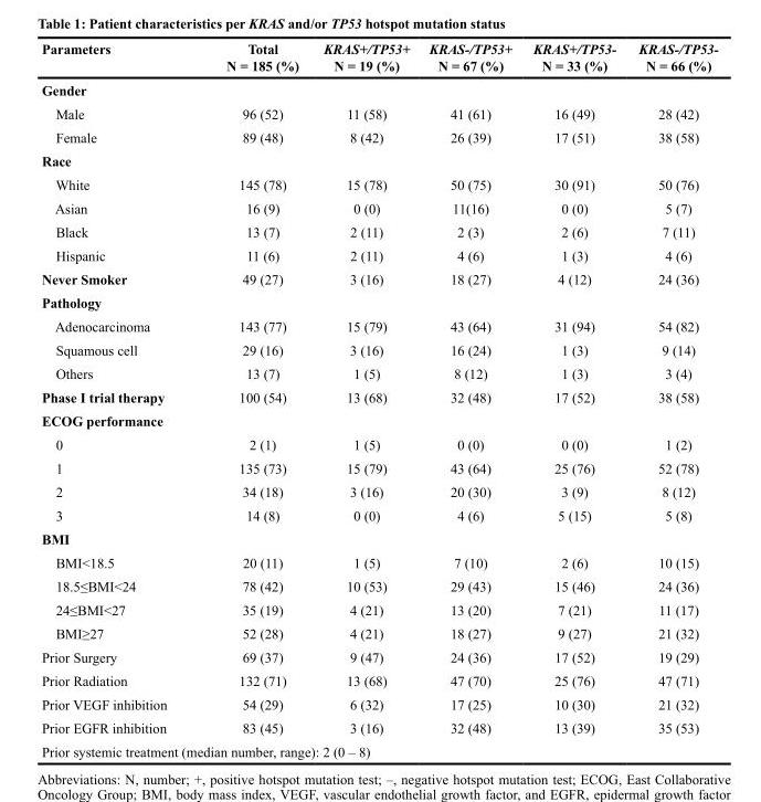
<table><thead><tr><td>Parameters</td><td>Total N = 185 (%)</td><td>KRAS+/TP53+ N = 19 (%)</td><td>KRAS-/TP53+ N = 67 (%)</td><td>KRAS+/TP53- N = 33 (%)</td><td>KRAS-/TP53- N = 66 (%)</td></tr></thead><tbody><tr><td colspan="6">Gender</td></tr><tr><td>Male</td><td>96 (52)</td><td>11 (58)</td><td>41 (61)</td><td>16 (49)</td><td>28 (42)</td></tr><tr><td>Female</td><td>89 (48)</td><td>8 (42)</td><td>26 (39)</td><td>17 (51)</td><td>38 (58)</td></tr><tr><td colspan="6">Race</td></tr><tr><td>White</td><td>145 (78)</td><td>15 (78)</td><td>50 (75)</td><td>30 (91)</td><td>50 (76)</td></tr><tr><td>Asian</td><td>16 (9)</td><td>0 (0)</td><td>11(16)</td><td>0 (0)</td><td>5 (7)</td></tr><tr><td>Black</td><td>13 (7)</td><td>2 (11)</td><td>2 (3)</td><td>2 (6)</td><td>7 (11)</td></tr><tr><td>Hispanic</td><td>11 (6)</td><td>2 (11)</td><td>4 (6)</td><td>1 (3)</td><td>4 (6)</td></tr><tr><td>Never Smoker</td><td>49 (27)</td><td>3 (16)</td><td>18 (27)</td><td>4 (12)</td><td>24 (36)</td></tr><tr><td colspan="6">Pathology</td></tr><tr><td>Adenocarcinoma</td><td>143 (77)</td><td>15 (79)</td><td>43 (64)</td><td>31 (94)</td><td>54 (82)</td></tr><tr><td>Squamous cell</td><td>29 (16)</td><td>3 (16)</td><td>16 (24)</td><td>1 (3)</td><td>9 (14)</td></tr><tr><td>Others</td><td>13 (7)</td><td>1 (5)</td><td>8 (12)</td><td>1 (3)</td><td>3 (4)</td></tr><tr><td>Phase I trial therapy</td><td>100 (54)</td><td>13 (68)</td><td>32 (48)</td><td>17 (52)</td><td>38 (58)</td></tr><tr><td colspan="6">ECOG performance</td></tr><tr><td>0</td><td>2 (1)</td><td>1 (5)</td><td>0 (0)</td><td>0 (0)</td><td>1 (2)</td></tr><tr><td>1</td><td>135 (73)</td><td>15 (79)</td><td>43 (64)</td><td>25 (76)</td><td>52 (78)</td></tr><tr><td>2</td><td>34 (18)</td><td>3 (16)</td><td>20 (30)</td><td>3 (9)</td><td>8 (12)</td></tr><tr><td>3</td><td>14 (8)</td><td>0 (0)</td><td>4 (6)</td><td>5 (15)</td><td>5 (8)</td></tr><tr><td colspan="6">BMI</td></tr><tr><td>BMI&lt;18.5</td><td>20 (11)</td><td>1 (5)</td><td>7 (10)</td><td>2 (6)</td><td>10 (15)</td></tr><tr><td>18.5≤BMI&lt;24</td><td>78 (42)</td><td>10 (53)</td><td>29 (43)</td><td>15 (46)</td><td>24 (36)</td></tr><tr><td>24≤BMI&lt;27</td><td>35 (19)</td><td>4 (21)</td><td>13 (20)</td><td>7 (21)</td><td>11 (17)</td></tr><tr><td>BMI≥27</td><td>52 (28)</td><td>4 (21)</td><td>18 (27)</td><td>9 (27)</td><td>21 (32)</td></tr><tr><td>Prior Surgery</td><td>69 (37)</td><td>9 (47)</td><td>24 (36)</td><td>17 (52)</td><td>19 (29)</td></tr><tr><td>Prior Radiation</td><td>132 (71)</td><td>13 (68)</td><td>47 (70)</td><td>25 (76)</td><td>47 (71)</td></tr><tr><td>Prior VEGF inhibition</td><td>54 (29)</td><td>6 (32)</td><td>17 (25)</td><td>10 (30)</td><td>21 (32)</td></tr><tr><td>Prior EGFR inhibition</td><td>83 (45)</td><td>3 (16)</td><td>32 (48)</td><td>13 (39)</td><td>35 (53)</td></tr><tr><td colspan="6">Prior systemic treatment (median number, range): 2 (0 – 8)</td></tr></tbody></table>